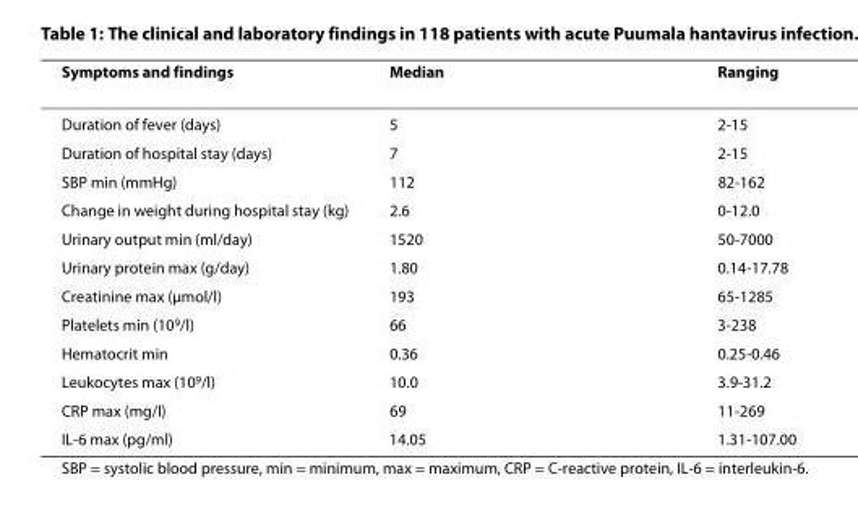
<table><thead><tr><td>Symptoms and findings</td><td>Median</td><td>Ranging</td></tr></thead><tbody><tr><td>Duration of fever (days)</td><td>5</td><td>2-15</td></tr><tr><td>Duration of hospital stay (days)</td><td>7</td><td>2-15</td></tr><tr><td>SBP min (mmHg)</td><td>112</td><td>82-162</td></tr><tr><td>Change in weight during hospital stay (kg)</td><td>2.6</td><td>0-12.0</td></tr><tr><td>Urinary output min (ml/day)</td><td>1520</td><td>50-7000</td></tr><tr><td>Urinary protein max (g/day)</td><td>1.80</td><td>0.14-17.78</td></tr><tr><td>Creatinine max (μmol/l)</td><td>193</td><td>65-1285</td></tr><tr><td>Platelets min (10<sup>9</sup>/l)</td><td>66</td><td>3-238</td></tr><tr><td>Hematocrit min</td><td>0.36</td><td>0.25-0.46</td></tr><tr><td>Leukocytes max (10<sup>9</sup>/l)</td><td>10.0</td><td>3.9-31.2</td></tr><tr><td>CRP max (mg/l)</td><td>69</td><td>11-269</td></tr><tr><td>IL-6 max (pg/ml)</td><td>14.05</td><td>1.31-107.00</td></tr></tbody></table>